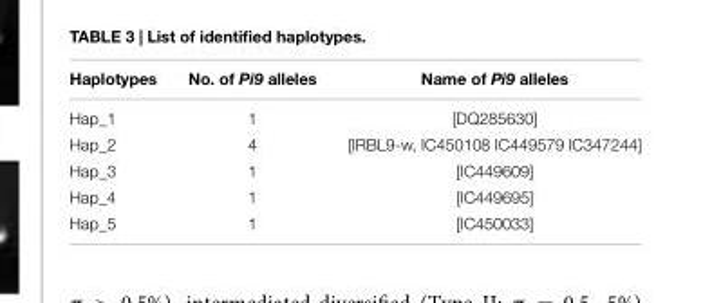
<table><thead><tr><td>Haplotypes</td><td>No. of Pi9 alleles</td><td>Name of Pi9 alleles</td></tr></thead><tbody><tr><td>Hap_1</td><td>1</td><td>[DQ285630]</td></tr><tr><td>Hap_2</td><td>4</td><td>[IRBL9-w, IC450108 IC449579 IC347244]</td></tr><tr><td>Hap_3</td><td>1</td><td>[IC449609]</td></tr><tr><td>Hap_4</td><td>1</td><td>[IC449695]</td></tr><tr><td>Hap_5</td><td>1</td><td>[IC450033]</td></tr></tbody></table>